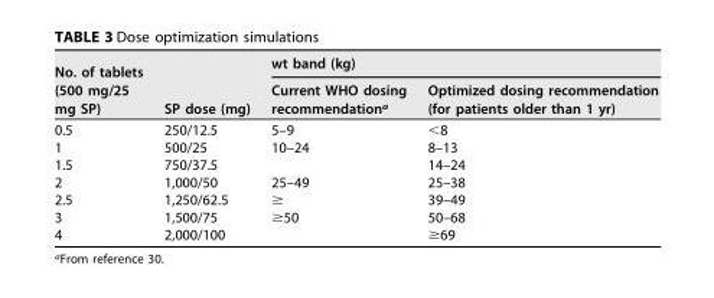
<table><thead><tr><td rowspan="2">No. of tablets (500 mg/25 mg SP)</td><td rowspan="2">SP dose (mg)</td><td colspan="2">wt band (kg)</td></tr><tr><td>Current WHO dosing recommendation<sup>a</sup></td><td>Optimized dosing recommendation (for patients older than 1 yr)</td></tr></thead><tbody><tr><td>0.5</td><td>250/12.5</td><td>5–9</td><td>&lt;8</td></tr><tr><td>1</td><td>500/25</td><td>10–24</td><td>8–13</td></tr><tr><td>1.5</td><td>750/37.5</td><td></td><td>14–24</td></tr><tr><td>2</td><td>1,000/50</td><td>25–49</td><td>25–38</td></tr><tr><td>2.5</td><td>1,250/62.5</td><td>≥</td><td>39–49</td></tr><tr><td>3</td><td>1,500/75</td><td>≥50</td><td>50–68</td></tr><tr><td>4</td><td>2,000/100</td><td></td><td>≥69</td></tr></tbody></table>